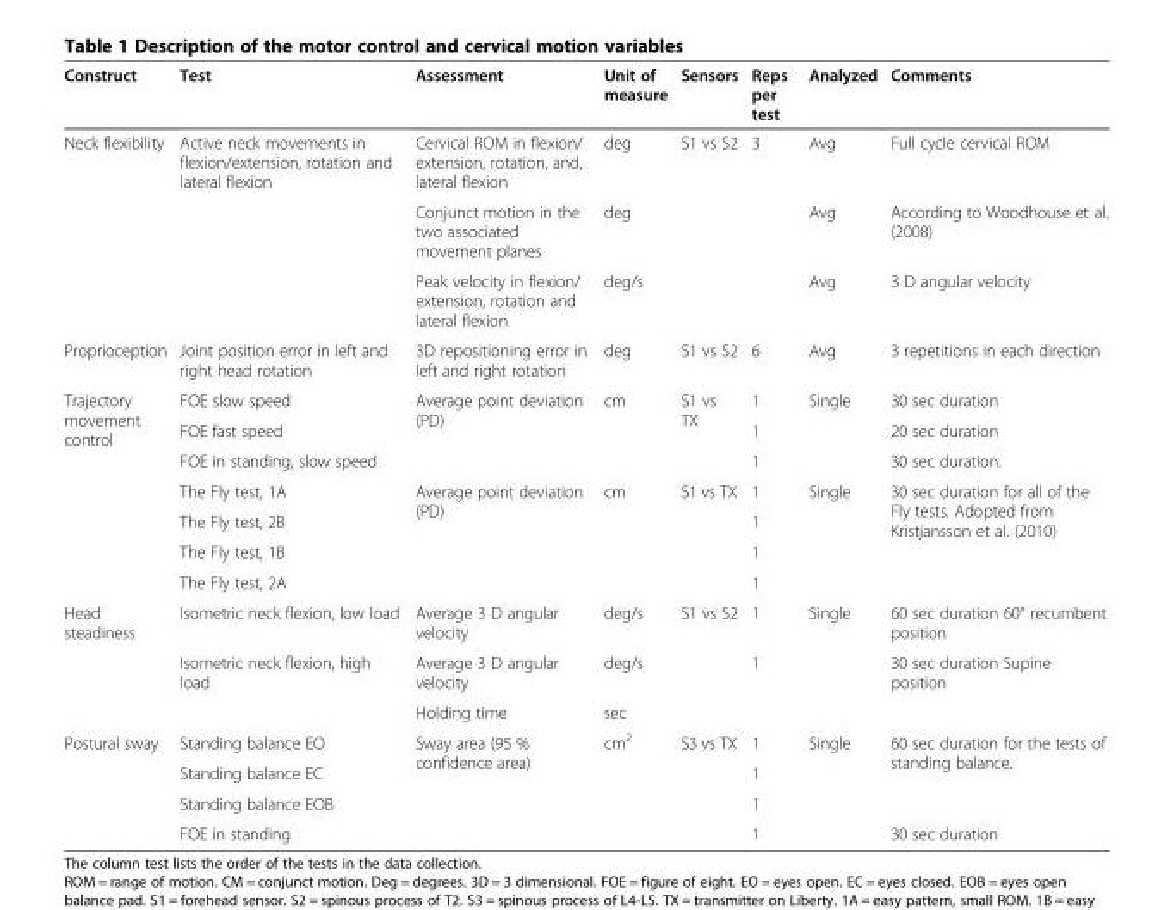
<table><thead><tr><td>Construct</td><td>Test</td><td>Assessment</td><td>Unit of measure</td><td>Sensors</td><td>Reps per test</td><td>Analyzed</td><td>Comments</td></tr></thead><tbody><tr><td rowspan="3">Neck flexibility</td><td rowspan="3">Active neck movements in flexion/extension, rotation and lateral flexion</td><td>Cervical ROM in flexion/ extension, rotation, and, lateral flexion</td><td>deg</td><td rowspan="3">S1 vs S2</td><td rowspan="3">3</td><td>Avg</td><td>Full cycle cervical ROM</td></tr><tr><td>Conjunct motion in the two associated movement planes</td><td>deg</td><td>Avg</td><td>According to Woodhouse et al. (2008)</td></tr><tr><td>Peak velocity in flexion/ extension, rotation and lateral flexion</td><td>deg/s</td><td>Avg</td><td>3 D angular velocity</td></tr><tr><td>Proprioception</td><td>Joint position error in left and right head rotation</td><td>3D repositioning error in left and right rotation</td><td>deg</td><td>S1 vs S2</td><td>6</td><td>Avg</td><td>3 repetitions in each direction</td></tr><tr><td rowspan="7">Trajectory movement control</td><td>FOE slow speed</td><td rowspan="3">Average point deviation (PD)</td><td rowspan="3">cm</td><td rowspan="3">S1 vs TX</td><td>1</td><td rowspan="3">Single</td><td>30 sec duration</td></tr><tr><td>FOE fast speed</td><td>1</td><td>20 sec duration</td></tr><tr><td>FOE in standing, slow speed</td><td>1</td><td>30 sec duration.</td></tr><tr><td>The Fly test, 1A</td><td rowspan="4">Average point deviation (PD)</td><td rowspan="4">cm</td><td rowspan="4">S1 vs TX</td><td>1</td><td rowspan="4">Single</td><td rowspan="4">30 sec duration for all of the Fly tests. Adopted from Kristjansson et al. (2010)</td></tr><tr><td>The Fly test, 2B</td><td>1</td></tr><tr><td>The Fly test, 1B</td><td>1</td></tr><tr><td>The Fly test, 2A</td><td>1</td></tr><tr><td rowspan="3">Head steadiness</td><td>Isometric neck flexion, low load</td><td>Average 3 D angular velocity</td><td>deg/s</td><td rowspan="3">S1 vs S2</td><td>1</td><td rowspan="3">Single</td><td>60 sec duration 60° recumbent position</td></tr><tr><td rowspan="2">Isometric neck flexion, high load</td><td>Average 3 D angular velocity</td><td>deg/s</td><td rowspan="2">1</td><td rowspan="2">30 sec duration Supine position</td></tr><tr><td>Holding time</td><td>sec</td></tr><tr><td rowspan="4">Postural sway</td><td>Standing balance EO</td><td rowspan="4">Sway area (95 % confidence area)</td><td rowspan="4">cm<sup>2</sup></td><td rowspan="4">S3 vs TX</td><td>1</td><td rowspan="4">Single</td><td rowspan="3">60 sec duration for the tests of standing balance.</td></tr><tr><td>Standing balance EC</td><td>1</td></tr><tr><td>Standing balance EOB</td><td>1</td></tr><tr><td>FOE in standing</td><td>1</td><td>30 sec duration</td></tr></tbody></table>